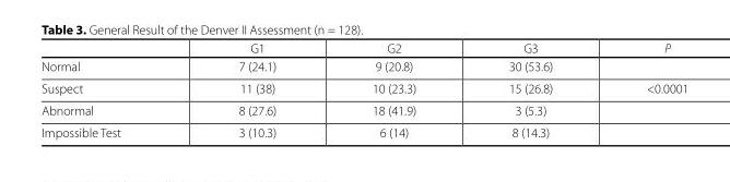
<table><thead><tr><td></td><td>G1</td><td>G2</td><td>G3</td><td>P</td></tr></thead><tbody><tr><td>Normal</td><td>7 (24.1)</td><td>9 (20.8)</td><td>30 (53.6)</td><td></td></tr><tr><td>Suspect</td><td>11 (38)</td><td>10 (23.3)</td><td>15 (26.8)</td><td>&lt;0.0001</td></tr><tr><td>Abnormal</td><td>8 (27.6)</td><td>18 (41.9)</td><td>3 (5.3)</td><td></td></tr><tr><td>Impossible Test</td><td>3 (10.3)</td><td>6 (14)</td><td>8 (14.3)</td><td></td></tr></tbody></table>